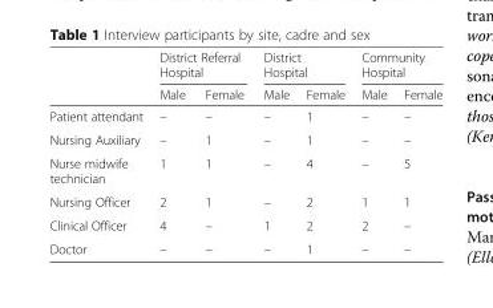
<table><thead><tr><td rowspan="2"></td><td colspan="2">District Referral Hospital</td><td colspan="2">District Hospital</td><td colspan="2">Community Hospital</td></tr><tr><td>Male</td><td>Female</td><td>Male</td><td>Female</td><td>Male</td><td>Female</td></tr></thead><tbody><tr><td>Patient attendant</td><td>–</td><td>–</td><td>–</td><td>1</td><td>–</td><td>–</td></tr><tr><td>Nursing Auxiliary</td><td>–</td><td>1</td><td>–</td><td>1</td><td>–</td><td>–</td></tr><tr><td>Nurse midwife technician</td><td>1</td><td>1</td><td>–</td><td>4</td><td>–</td><td>5</td></tr><tr><td>Nursing Officer</td><td>2</td><td>1</td><td>–</td><td>2</td><td>1</td><td>1</td></tr><tr><td>Clinical Officer</td><td>4</td><td>–</td><td>1</td><td>2</td><td>2</td><td>–</td></tr><tr><td>Doctor</td><td>–</td><td>–</td><td>–</td><td>1</td><td>–</td><td>–</td></tr></tbody></table>